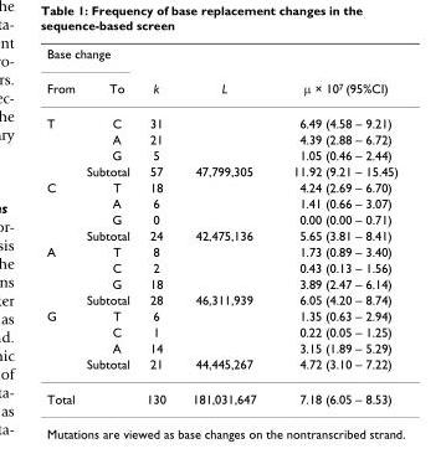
<table><thead><tr><td colspan="2">Base change</td><td rowspan="2">k</td><td rowspan="2">L</td><td rowspan="2">µ × 10<sup>7</sup> (95%CI)</td></tr><tr><td>From</td><td>To</td></tr></thead><tbody><tr><td rowspan="3">T</td><td>C</td><td>31</td><td></td><td>6.49 (4.58 – 9.21)</td></tr><tr><td>A</td><td>21</td><td></td><td>4.39 (2.88 – 6.72)</td></tr><tr><td>G</td><td>5</td><td></td><td>1.05 (0.46 – 2.44)</td></tr><tr><td colspan="2">Subtotal</td><td>57</td><td>47,799,305</td><td>11.92 (9.21 – 15.45)</td></tr><tr><td rowspan="3">C</td><td>T</td><td>18</td><td></td><td>4.24 (2.69 – 6.70)</td></tr><tr><td>A</td><td>6</td><td></td><td>1.41 (0.66 – 3.07)</td></tr><tr><td>G</td><td>0</td><td></td><td>0.00 (0.00 – 0.71)</td></tr><tr><td colspan="2">Subtotal</td><td>24</td><td>42,475,136</td><td>5.65 (3.81 – 8.41)</td></tr><tr><td rowspan="3">A</td><td>T</td><td>8</td><td></td><td>1.73 (0.89 – 3.40)</td></tr><tr><td>C</td><td>2</td><td></td><td>0.43 (0.13 – 1.56)</td></tr><tr><td>G</td><td>18</td><td></td><td>3.89 (2.47 – 6.14)</td></tr><tr><td colspan="2">Subtotal</td><td>28</td><td>46,311,939</td><td>6.05 (4.20 – 8.74)</td></tr><tr><td rowspan="3">G</td><td>T</td><td>6</td><td></td><td>1.35 (0.63 – 2.94)</td></tr><tr><td>C</td><td>1</td><td></td><td>0.22 (0.05 – 1.25)</td></tr><tr><td>A</td><td>14</td><td></td><td>3.15 (1.89 – 5.29)</td></tr><tr><td colspan="2">Subtotal</td><td>21</td><td>44,445,267</td><td>4.72 (3.10 – 7.22)</td></tr><tr><td>Total</td><td></td><td>130</td><td>181,031,647</td><td>7.18 (6.05 – 8.53)</td></tr></tbody></table>